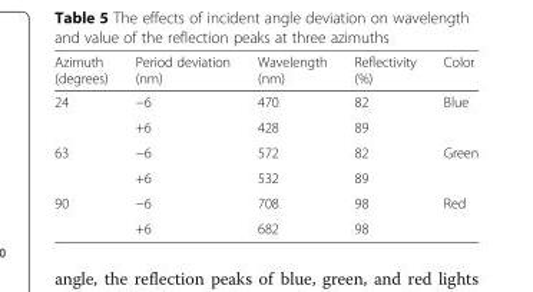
<table><thead><tr><td>Azimuth (degrees)</td><td>Period deviation (nm)</td><td>Wavelength (nm)</td><td>Reflectivity (%)</td><td>Color</td></tr></thead><tbody><tr><td rowspan="2">24</td><td>−6</td><td>470</td><td>82</td><td rowspan="2">Blue</td></tr><tr><td>+6</td><td>428</td><td>89</td></tr><tr><td rowspan="2">63</td><td>−6</td><td>572</td><td>82</td><td rowspan="2">Green</td></tr><tr><td>+6</td><td>532</td><td>89</td></tr><tr><td rowspan="2">90</td><td>−6</td><td>708</td><td>98</td><td rowspan="2">Red</td></tr><tr><td>+6</td><td>682</td><td>98</td></tr></tbody></table>